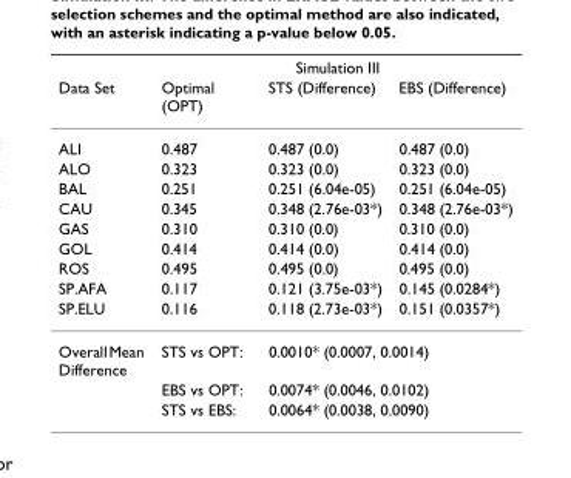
<table><thead><tr><td rowspan="2">Data Set</td><td colspan="3">Simulation III</td></tr><tr><td>Optimal (OPT)</td><td>STS (Difference)</td><td>EBS (Difference)</td></tr></thead><tbody><tr><td>ALI</td><td>0.487</td><td>0.487 (0.0)</td><td>0.487 (0.0)</td></tr><tr><td>ALO</td><td>0.323</td><td>0.323 (0.0)</td><td>0.323 (0.0)</td></tr><tr><td>BAL</td><td>0.251</td><td>0.251 (6.04e-05)</td><td>0.251 (6.04e-05)</td></tr><tr><td>CAU</td><td>0.345</td><td>0.348 (2.76e-03*)</td><td>0.348 (2.76e-03*)</td></tr><tr><td>GAS</td><td>0.310</td><td>0.310 (0.0)</td><td>0.310 (0.0)</td></tr><tr><td>GOL</td><td>0.414</td><td>0.414 (0.0)</td><td>0.414 (0.0)</td></tr><tr><td>ROS</td><td>0.495</td><td>0.495 (0.0)</td><td>0.495 (0.0)</td></tr><tr><td>SP.AFA</td><td>0.117</td><td>0.121 (3.75e-03*)</td><td>0.145 (0.0284*)</td></tr><tr><td>SP.ELU</td><td>0.116</td><td>0.118 (2.73e-03*)</td><td>0.151 (0.0357*)</td></tr><tr><td rowspan="3">Overall Mean Difference</td><td>STS vs OPT:</td><td colspan="2">0.0010* (0.0007, 0.0014)</td></tr><tr><td>EBS vs OPT:</td><td colspan="2">0.0074* (0.0046, 0.0102)</td></tr><tr><td>STS vs EBS:</td><td colspan="2">0.0064* (0.0038, 0.0090)</td></tr></tbody></table>